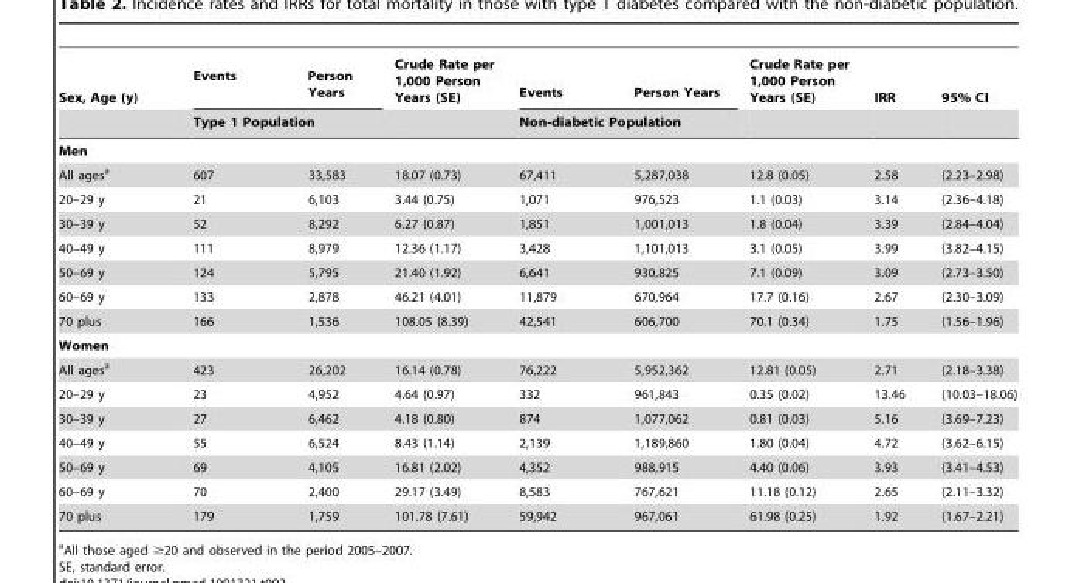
<table><thead><tr><td rowspan="3">Sex, Age (y) Men</td><td rowspan="2" colspan="2">Events Person Years Type 1 Population</td><td rowspan="3">Crude Rate per 1,000 Person Years (SE)</td><td rowspan="2" colspan="2">Events Person Years Non-diabetic Population</td><td rowspan="3">Crude Rate per 1,000 Person Years (SE)</td><td rowspan="3">IRR</td><td rowspan="3">95% CI</td></tr><tr></tr><tr><td></td><td></td><td></td><td></td></tr></thead><tbody><tr><td>All ages<sup>a</sup></td><td>607</td><td>33,583</td><td>18.07 (0.73)</td><td>67,411</td><td>5,287,038</td><td>12.8 (0.05)</td><td>2.58</td><td>(2.23–2.98)</td></tr><tr><td>20–29 y</td><td>21</td><td>6,103</td><td>3.44 (0.75)</td><td>1,071</td><td>976,523</td><td>1.1 (0.03)</td><td>3.14</td><td>(2.36–4.18)</td></tr><tr><td>30–39 y</td><td>52</td><td>8,292</td><td>6.27 (0.87)</td><td>1,851</td><td>1,001,013</td><td>1.8 (0.04)</td><td>3.39</td><td>(2.84–4.04)</td></tr><tr><td>40–49 y</td><td>111</td><td>8,979</td><td>12.36 (1.17)</td><td>3,428</td><td>1,101,013</td><td>3.1 (0.05)</td><td>3.99</td><td>(3.82–4.15)</td></tr><tr><td>50–69 y</td><td>124</td><td>5,795</td><td>21.40 (1.92)</td><td>6,641</td><td>930,825</td><td>7.1 (0.09)</td><td>3.09</td><td>(2.73–3.50)</td></tr><tr><td>60–69 y</td><td>133</td><td>2,878</td><td>46.21 (4.01)</td><td>11,879</td><td>670,964</td><td>17.7 (0.16)</td><td>2.67</td><td>(2.30–3.09)</td></tr><tr><td>70 plus</td><td>166</td><td>1,536</td><td>108.05 (8.39)</td><td>42,541</td><td>606,700</td><td>70.1 (0.34)</td><td>1.75</td><td>(1.56–1.96)</td></tr><tr><td colspan="9">Women</td></tr><tr><td>All ages<sup>a</sup></td><td>423</td><td>26,202</td><td>16.14 (0.78)</td><td>76,222</td><td>5,952,362</td><td>12.81 (0.05)</td><td>2.71</td><td>(2.18–3.38)</td></tr><tr><td>20–29 y</td><td>23</td><td>4,952</td><td>4.64 (0.97)</td><td>332</td><td>961,843</td><td>0.35 (0.02)</td><td>13.46</td><td>(10.03–18.06)</td></tr><tr><td>30–39 y</td><td>27</td><td>6,462</td><td>4.18 (0.80)</td><td>874</td><td>1,077,062</td><td>0.81 (0.03)</td><td>5.16</td><td>(3.69–7.23)</td></tr><tr><td>40–49 y</td><td>55</td><td>6,524</td><td>8.43 (1.14)</td><td>2,139</td><td>1,189,860</td><td>1.80 (0.04)</td><td>4.72</td><td>(3.62–6.15)</td></tr><tr><td>50–69 y</td><td>69</td><td>4,105</td><td>16.81 (2.02)</td><td>4,352</td><td>988,915</td><td>4.40 (0.06)</td><td>3.93</td><td>(3.41–4.53)</td></tr><tr><td>60–69 y</td><td>70</td><td>2,400</td><td>29.17 (3.49)</td><td>8,583</td><td>767,621</td><td>11.18 (0.12)</td><td>2.65</td><td>(2.11–3.32)</td></tr><tr><td>70 plus</td><td>179</td><td>1,759</td><td>101.78 (7.61)</td><td>59,942</td><td>967,061</td><td>61.98 (0.25)</td><td>1.92</td><td>(1.67–2.21)</td></tr></tbody></table>